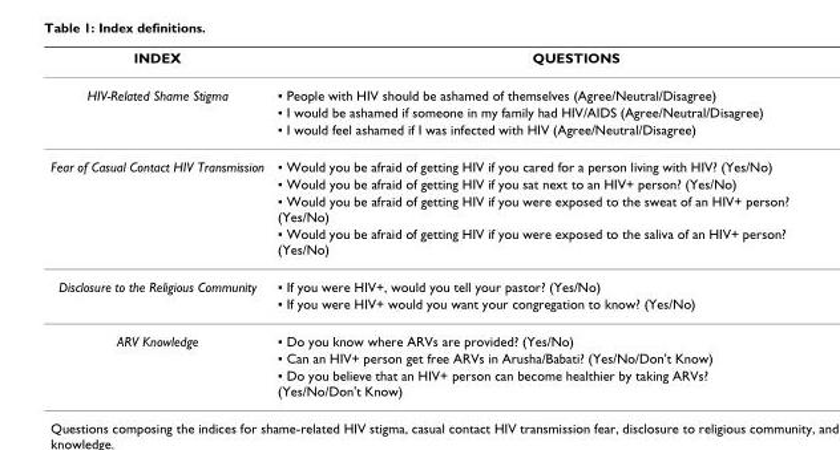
<table><thead><tr><td>INDEX</td><td>QUESTIONS</td></tr></thead><tbody><tr><td rowspan="3">HIV-Related Shame Stigma</td><td>▪ People with HIV should be ashamed of themselves (Agree/Neutral/Disagree)</td></tr><tr><td>▪ I would be ashamed if someone in my family had HIV/AIDS (Agree/Neutral/Disagree)</td></tr><tr><td>▪ I would feel ashamed if I was infected with HIV (Agree/Neutral/Disagree)</td></tr><tr><td rowspan="4">Fear of Casual Contact HIV Transmission</td><td>▪ Would you be afraid of getting HIV if you cared for a person living with HIV? (Yes/No)</td></tr><tr><td>▪ Would you be afraid of getting HIV if you sat next to an HIV+ person? (Yes/No)</td></tr><tr><td>▪ Would you be afraid of getting HIV if you were exposed to the sweat of an HIV+ person? (Yes/No)</td></tr><tr><td>▪ Would you be afraid of getting HIV if you were exposed to the saliva of an HIV+ person? (Yes/No)</td></tr><tr><td rowspan="2">Disclosure to the Religious Community</td><td>▪ If you were HIV+, would you tell your pastor? (Yes/No)</td></tr><tr><td>▪ If you were HIV+ would you want your congregation to know? (Yes/No)</td></tr><tr><td rowspan="3">ARV Knowledge</td><td>▪ Do you know where ARVs are provided? (Yes/No)</td></tr><tr><td>▪ Can an HIV+ person get free ARVs in Arusha/Babati? (Yes/No/Don&#x27;t Know)</td></tr><tr><td>▪ Do you believe that an HIV+ person can become healthier by taking ARVs? (Yes/No/Don&#x27;t Know)</td></tr></tbody></table>